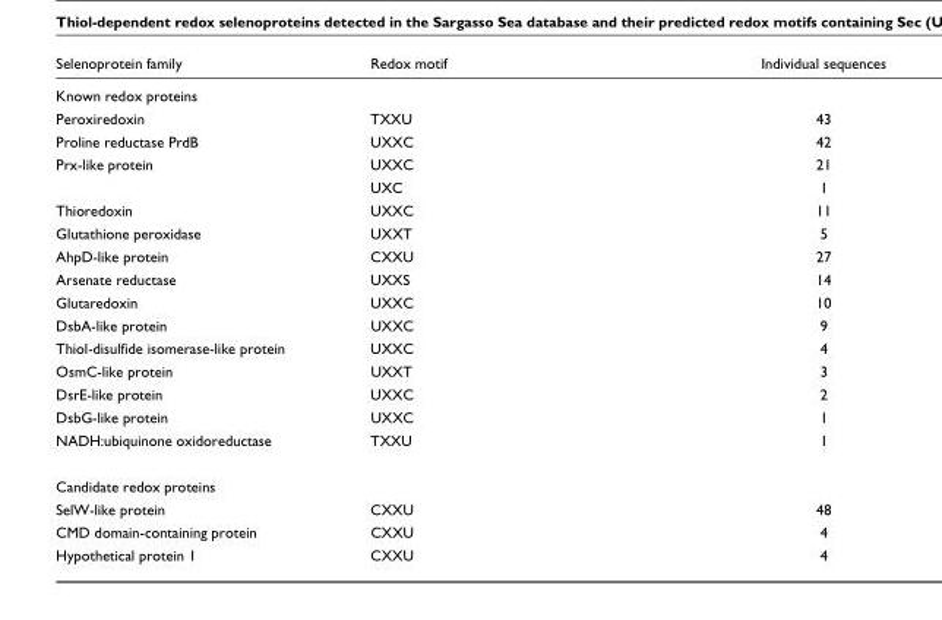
<table><thead><tr><td>Selenoprotein family</td><td>Redox motif</td><td>Individual sequences</td></tr></thead><tbody><tr><td colspan="3">Known redox proteins</td></tr><tr><td>Peroxiredoxin</td><td>TXXU</td><td>43</td></tr><tr><td>Proline reductase PrdB</td><td>UXXC</td><td>42</td></tr><tr><td rowspan="2">Prx-like protein</td><td>UXXC</td><td>21</td></tr><tr><td>UXC</td><td>1</td></tr><tr><td>Thioredoxin</td><td>UXXC</td><td>11</td></tr><tr><td>Glutathione peroxidase</td><td>UXXT</td><td>5</td></tr><tr><td>AhpD-like protein</td><td>CXXU</td><td>27</td></tr><tr><td>Arsenate reductase</td><td>UXXS</td><td>14</td></tr><tr><td>Glutaredoxin</td><td>UXXC</td><td>10</td></tr><tr><td>DsbA-like protein</td><td>UXXC</td><td>9</td></tr><tr><td>Thiol-disulfide isomerase-like protein</td><td>UXXC</td><td>4</td></tr><tr><td>OsmC-like protein</td><td>UXXT</td><td>3</td></tr><tr><td>DsrE-like protein</td><td>UXXC</td><td>2</td></tr><tr><td>DsbG-like protein</td><td>UXXC</td><td>1</td></tr><tr><td>NADH:ubiquinone oxidoreductase</td><td>TXXU</td><td>1</td></tr><tr><td colspan="3">Candidate redox proteins</td></tr><tr><td>SelW-like protein</td><td>CXXU</td><td>48</td></tr><tr><td>CMD domain-containing protein</td><td>CXXU</td><td>4</td></tr><tr><td>Hypothetical protein 1</td><td>CXXU</td><td>4</td></tr></tbody></table>